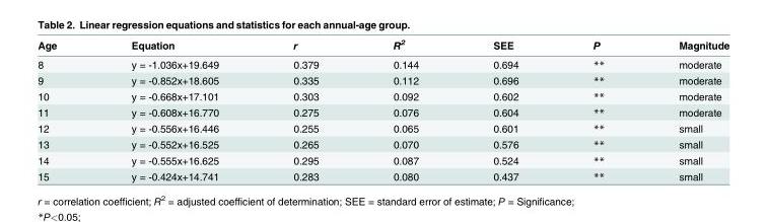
<table><thead><tr><td>Age</td><td>Equation</td><td>r</td><td>R<sup>2</sup></td><td>SEE</td><td>P</td><td>Magnitude</td></tr></thead><tbody><tr><td>8</td><td>y = -1.036x+19.649</td><td>0.379</td><td>0.144</td><td>0.694</td><td>**</td><td>moderate</td></tr><tr><td>9</td><td>y = -0.852x+18.605</td><td>0.335</td><td>0.112</td><td>0.696</td><td>**</td><td>moderate</td></tr><tr><td>10</td><td>y = -0.668x+17.101</td><td>0.303</td><td>0.092</td><td>0.602</td><td>**</td><td>moderate</td></tr><tr><td>11</td><td>y = -0.608x+16.770</td><td>0.275</td><td>0.076</td><td>0.604</td><td>**</td><td>moderate</td></tr><tr><td>12</td><td>y = -0.556x+16.446</td><td>0.255</td><td>0.065</td><td>0.601</td><td>**</td><td>small</td></tr><tr><td>13</td><td>y = -0.552x+16.525</td><td>0.265</td><td>0.070</td><td>0.576</td><td>**</td><td>small</td></tr><tr><td>14</td><td>y = -0.555x+16.625</td><td>0.295</td><td>0.087</td><td>0.524</td><td>**</td><td>small</td></tr><tr><td>15</td><td>y = -0.424x+14.741</td><td>0.283</td><td>0.080</td><td>0.437</td><td>**</td><td>small</td></tr></tbody></table>